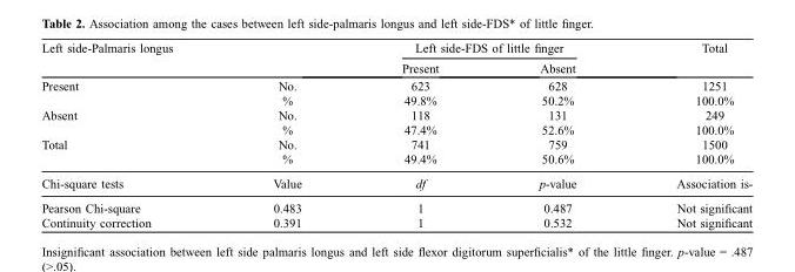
<table><thead><tr><td rowspan="2">Left side-Palmaris longus</td><td rowspan="2"></td><td colspan="2">Left side-FDS of little finger</td><td rowspan="2">Total</td></tr><tr><td>Present</td><td>Absent</td></tr></thead><tbody><tr><td rowspan="2">Present</td><td>No.</td><td>623</td><td>628</td><td>1251</td></tr><tr><td>%</td><td>49.8%</td><td>50.2%</td><td>100.0%</td></tr><tr><td rowspan="2">Absent</td><td>No.</td><td>118</td><td>131</td><td>249</td></tr><tr><td>%</td><td>47.4%</td><td>52.6%</td><td>100.0%</td></tr><tr><td rowspan="2">Total</td><td>No.</td><td>741</td><td>759</td><td>1500</td></tr><tr><td>%</td><td>49.4%</td><td>50.6%</td><td>100.0%</td></tr><tr><td>Chi-square tests</td><td>Value</td><td>df</td><td>p-value</td><td>Association is-</td></tr><tr><td>Pearson Chi-square</td><td>0.483</td><td>1</td><td>0.487</td><td>Not significant</td></tr><tr><td>Continuity correction</td><td>0.391</td><td>1</td><td>0.532</td><td>Not significant</td></tr></tbody></table>